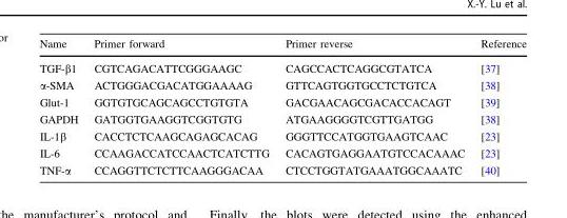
<table><thead><tr><td>Name</td><td>Primer forward</td><td>Primer reverse</td><td>Reference</td></tr></thead><tbody><tr><td>TGF-β1</td><td>CGTCAGACATTCGGGAAGC</td><td>CAGCCACTCAGGCGTATCA</td><td>[37]</td></tr><tr><td>α-SMA</td><td>ACTGGGACGACATGGAAAAG</td><td>GTTCAGTGGTGCCTCTGTCA</td><td>[38]</td></tr><tr><td>Glut-1</td><td>GGTGTGCAGCAGCCTGTGTA</td><td>GACGAACAGCGACACCACAGT</td><td>[39]</td></tr><tr><td>GAPDH</td><td>GATGGTGAAGGTCGGTGTG</td><td>ATGAAGGGGTCGTTGATGG</td><td>[38]</td></tr><tr><td>IL-1β</td><td>CACCTCTCAAGCAGAGCACAG</td><td>GGGTTCCATGGTGAAGTCAAC</td><td>[23]</td></tr><tr><td>IL-6</td><td>CCAAGACCATCCAACTCATCTTG</td><td>CACAGTGAGGAATGTCCACAAAC</td><td>[23]</td></tr><tr><td>TNF-α</td><td>CCAGGTTCTCTTCAAGGGACAA</td><td>CTCCTGGTATGAAATGGCAAATC</td><td>[40]</td></tr></tbody></table>